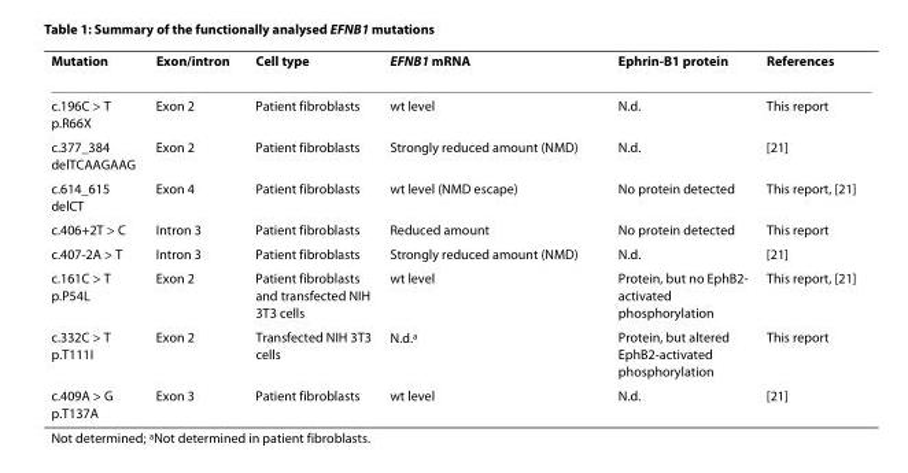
<table><thead><tr><td>Mutation</td><td>Exon/intron</td><td>Cell type</td><td>EFNB1 mRNA</td><td>Ephrin-B1 protein</td><td>References</td></tr></thead><tbody><tr><td>c.196C &gt; T p.R66X</td><td>Exon 2</td><td>Patient fibroblasts</td><td>wt level</td><td>N.d.</td><td>This report</td></tr><tr><td>c.377_384 delTCAAGAAG</td><td>Exon 2</td><td>Patient fibroblasts</td><td>Strongly reduced amount (NMD)</td><td>N.d.</td><td>[21]</td></tr><tr><td>c.614_615 delCT</td><td>Exon 4</td><td>Patient fibroblasts</td><td>wt level (NMD escape)</td><td>No protein detected</td><td>This report, [21]</td></tr><tr><td>c.406+2T &gt; C</td><td>Intron 3</td><td>Patient fibroblasts</td><td>Reduced amount</td><td>No protein detected</td><td>This report</td></tr><tr><td>c.407-2A &gt; T</td><td>Intron 3</td><td>Patient fibroblasts</td><td>Strongly reduced amount (NMD)</td><td>N.d.</td><td>[21]</td></tr><tr><td>c.161C &gt; T p.P54L</td><td>Exon 2</td><td>Patient fibroblasts and transfected NIH 3T3 cells</td><td>wt level</td><td>Protein, but no EphB2- activated phosphorylation</td><td>This report, [21]</td></tr><tr><td>c.332C &gt; T p.T111I</td><td>Exon 2</td><td>Transfected NIH 3T3 cells</td><td>N.d.<sup>a</sup></td><td>Protein, but altered EphB2-activated phosphorylation</td><td>This report</td></tr><tr><td>c.409A &gt; G p.T137A</td><td>Exon 3</td><td>Patient fibroblasts</td><td>wt level</td><td>N.d.</td><td>[21]</td></tr></tbody></table>